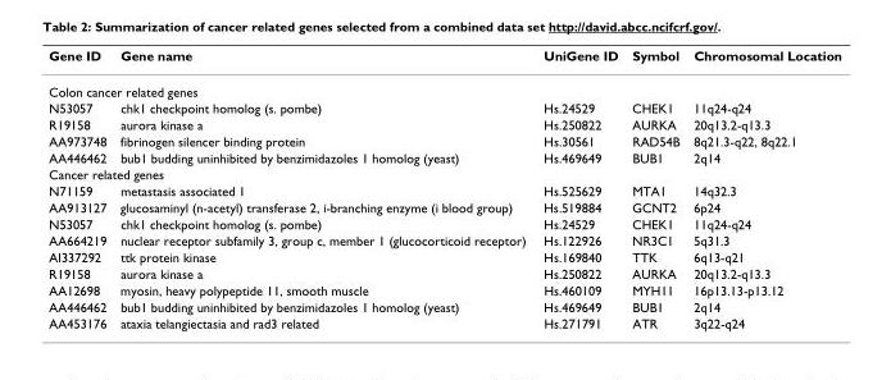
<table><thead><tr><td>Gene ID</td><td>Gene name</td><td>UniGene ID</td><td>Symbol</td><td>Chromosomal Location</td></tr></thead><tbody><tr><td colspan="5">Colon cancer related genes</td></tr><tr><td>N53057</td><td>chk1 checkpoint homolog (s. pombe)</td><td>Hs.24529</td><td>CHEK1</td><td>11q24-q24</td></tr><tr><td>R19158</td><td>aurora kinase a</td><td>Hs.250822</td><td>AURKA</td><td>20q13.2-q13.3</td></tr><tr><td>AA973748</td><td>fibrinogen silencer binding protein</td><td>Hs.30561</td><td>RAD54B</td><td>8q21.3-q22, 8q22.1</td></tr><tr><td>AA446462</td><td>bub1 budding uninhibited by benzimidazoles 1 homolog (yeast)</td><td>Hs.469649</td><td>BUB1</td><td>2q14</td></tr><tr><td colspan="5">Cancer related genes</td></tr><tr><td>N71159</td><td>metastasis associated 1</td><td>Hs.525629</td><td>MTA1</td><td>14q32.3</td></tr><tr><td>AA913127</td><td>glucosaminyl (n-acetyl) transferase 2, i-branching enzyme (i blood group)</td><td>Hs.519884</td><td>GCNT2</td><td>6p24</td></tr><tr><td>N53057</td><td>chk1 checkpoint homolog (s. pombe)</td><td>Hs.24529</td><td>CHEK1</td><td>11q24-q24</td></tr><tr><td>AA664219</td><td>nuclear receptor subfamily 3, group c, member 1 (glucocorticoid receptor)</td><td>Hs.122926</td><td>NR3C1</td><td>5q31.3</td></tr><tr><td>AI337292</td><td>ttk protein kinase</td><td>Hs.169840</td><td>TTK</td><td>6q13-q21</td></tr><tr><td>R19158</td><td>aurora kinase a</td><td>Hs.250822</td><td>AURKA</td><td>20q13.2-q13.3</td></tr><tr><td>AA12698</td><td>myosin, heavy polypeptide 11, smooth muscle</td><td>Hs.460109</td><td>MYH11</td><td>16p13.13-p13.12</td></tr><tr><td>AA446462</td><td>bub1 budding uninhibited by benzimidazoles 1 homolog (yeast)</td><td>Hs.469649</td><td>BUB1</td><td>2q14</td></tr><tr><td>AA453176</td><td>ataxia telangiectasia and rad3 related</td><td>Hs.271791</td><td>ATR</td><td>3q22-q24</td></tr></tbody></table>